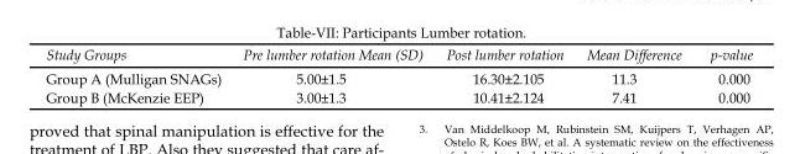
<table><thead><tr><td>Study Groups</td><td>Pre lumber rotation Mean (SD)</td><td>Post lumber rotation</td><td>Mean Difference</td><td>p-value</td></tr></thead><tbody><tr><td>Group A (Mulligan SNAGs)</td><td>5.00±1.5</td><td>16.30±2.105</td><td>11.3</td><td>0.000</td></tr><tr><td>Group B (McKenzie EEP)</td><td>3.00±1.3</td><td>10.41±2.124</td><td>7.41</td><td>0.000</td></tr></tbody></table>